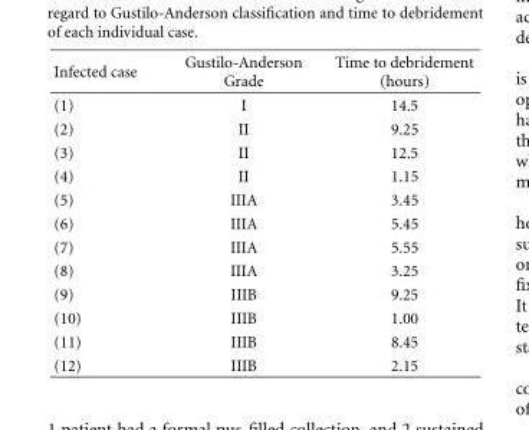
<table><thead><tr><td>Infected case</td><td>Gustilo-Anderson Grade</td><td>Time to debridement (hours)</td></tr></thead><tbody><tr><td>(1)</td><td>I</td><td>14.5</td></tr><tr><td>(2)</td><td>II</td><td>9.25</td></tr><tr><td>(3)</td><td>II</td><td>12.5</td></tr><tr><td>(4)</td><td>II</td><td>1.15</td></tr><tr><td>(5)</td><td>IIIA</td><td>3.45</td></tr><tr><td>(6)</td><td>IIIA</td><td>5.45</td></tr><tr><td>(7)</td><td>IIIA</td><td>5.55</td></tr><tr><td>(8)</td><td>IIIA</td><td>3.25</td></tr><tr><td>(9)</td><td>IIIB</td><td>9.25</td></tr><tr><td>(10)</td><td>IIIB</td><td>1.00</td></tr><tr><td>(11)</td><td>IIIB</td><td>8.45</td></tr><tr><td>(12)</td><td>IIIB</td><td>2.15</td></tr></tbody></table>